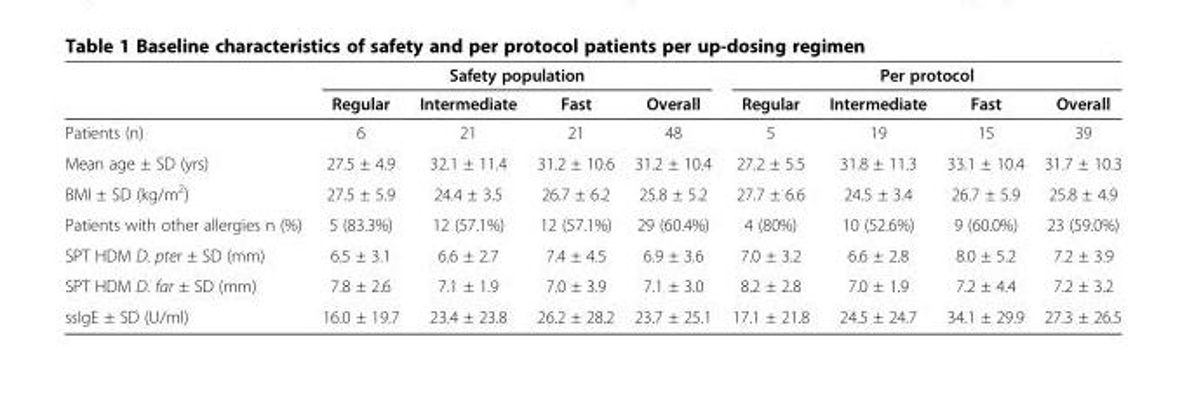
<table><thead><tr><td rowspan="2"></td><td colspan="4">Safety population</td><td colspan="4">Per protocol</td></tr><tr><td>Regular</td><td>Intermediate</td><td>Fast</td><td>Overall</td><td>Regular</td><td>Intermediate</td><td>Fast</td><td>Overall</td></tr></thead><tbody><tr><td>Patients (n)</td><td>6</td><td>21</td><td>21</td><td>48</td><td>5</td><td>19</td><td>15</td><td>39</td></tr><tr><td>Mean age ± SD (yrs)</td><td>27.5 ± 4.9</td><td>32.1 ± 11.4</td><td>31.2 ± 10.6</td><td>31.2 ± 10.4</td><td>27.2 ± 5.5</td><td>31.8 ± 11.3</td><td>33.1 ± 10.4</td><td>31.7 ± 10.3</td></tr><tr><td>BMI ± SD (kg/m<sup>2</sup>)</td><td>27.5 ± 5.9</td><td>24.4 ± 3.5</td><td>26.7 ± 6.2</td><td>25.8 ± 5.2</td><td>27.7 ± 6.6</td><td>24.5 ± 3.4</td><td>26.7 ± 5.9</td><td>25.8 ± 4.9</td></tr><tr><td>Patients with other allergies n (%)</td><td>5 (83.3%)</td><td>12 (57.1%)</td><td>12 (57.1%)</td><td>29 (60.4%)</td><td>4 (80%)</td><td>10 (52.6%)</td><td>9 (60.0%)</td><td>23 (59.0%)</td></tr><tr><td>SPT HDM D. pter ± SD (mm)</td><td>6.5 ± 3.1</td><td>6.6 ± 2.7</td><td>7.4 ± 4.5</td><td>6.9 ± 3.6</td><td>7.0 ± 3.2</td><td>6.6 ± 2.8</td><td>8.0 ± 5.2</td><td>7.2 ± 3.9</td></tr><tr><td>SPT HDM D. far ± SD (mm)</td><td>7.8 ± 2.6</td><td>7.1 ± 1.9</td><td>7.0 ± 3.9</td><td>7.1 ± 3.0</td><td>8.2 ± 2.8</td><td>7.0 ± 1.9</td><td>7.2 ± 4.4</td><td>7.2 ± 3.2</td></tr><tr><td>ssIgE ± SD (U/ml)</td><td>16.0 ± 19.7</td><td>23.4 ± 23.8</td><td>26.2 ± 28.2</td><td>23.7 ± 25.1</td><td>17.1 ± 21.8</td><td>24.5 ± 24.7</td><td>34.1 ± 29.9</td><td>27.3 ± 26.5</td></tr></tbody></table>